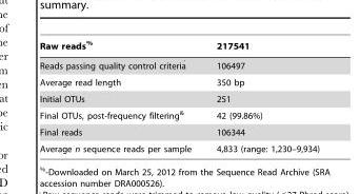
<table><thead><tr><td>Raw reads%</td><td>217541</td></tr></thead><tbody><tr><td>Reads passing quality control criteriaˆ</td><td>106497</td></tr><tr><td>Average read length</td><td>350 bp</td></tr><tr><td>Initial OTUs</td><td>251</td></tr><tr><td>Final OTUs, post-frequency filtering&amp;</td><td>42 (99.86%)</td></tr><tr><td>Final reads</td><td>106344</td></tr><tr><td>Average n sequence reads per sample</td><td>4,833 (range: 1,230–9,934)</td></tr></tbody></table>